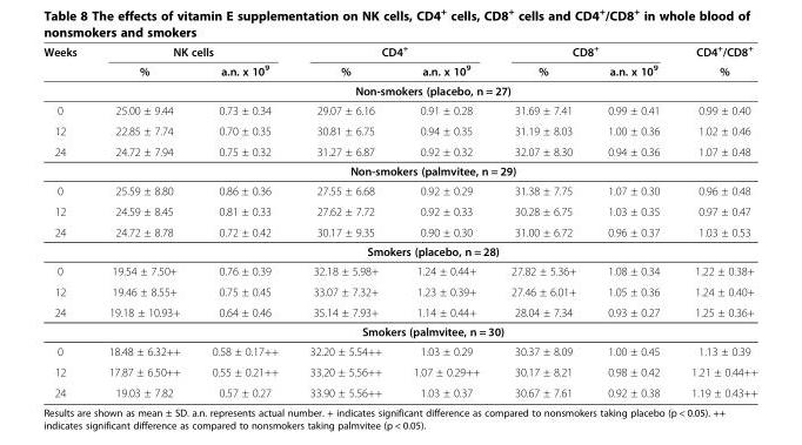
<table><thead><tr><td rowspan="2">Weeks</td><td colspan="2">NK cells</td><td colspan="2">CD4<sup>+</sup></td><td colspan="2">CD8<sup>+</sup></td><td rowspan="2">CD4<sup>+</sup>/CD8<sup>+</sup> %</td></tr><tr><td>%</td><td>a.n. x 10<sup>9</sup></td><td>%</td><td>a.n. x 10<sup>9</sup></td><td>%</td><td>a.n. x 10<sup>9</sup></td></tr></thead><tbody><tr><td></td><td colspan="7">Non-smokers (placebo, n = 27)</td></tr><tr><td>0</td><td>25.00 ± 9.44</td><td>0.73 ± 0.34</td><td>29.07 ± 6.16</td><td>0.91 ± 0.28</td><td>31.69 ± 7.41</td><td>0.99 ± 0.41</td><td>0.99 ± 0.40</td></tr><tr><td>12</td><td>22.85 ± 7.74</td><td>0.70 ± 0.35</td><td>30.81 ± 6.75</td><td>0.94 ± 0.35</td><td>31.19 ± 8.03</td><td>1.00 ± 0.36</td><td>1.02 ± 0.46</td></tr><tr><td rowspan="2">24</td><td>24.72 ± 7.94</td><td>0.75 ± 0.32</td><td>31.27 ± 6.87</td><td>0.92 ± 0.32</td><td>32.07 ± 8.30</td><td>0.94 ± 0.36</td><td>1.07 ± 0.48</td></tr><tr><td colspan="7">Non-smokers (palmvitee, n = 29)</td></tr><tr><td>0</td><td>25.59 ± 8.80</td><td>0.86 ± 0.36</td><td>27.55 ± 6.68</td><td>0.92 ± 0.29</td><td>31.38 ± 7.75</td><td>1.07 ± 0.30</td><td>0.96 ± 0.48</td></tr><tr><td>12</td><td>24.59 ± 8.45</td><td>0.81 ± 0.33</td><td>27.62 ± 7.72</td><td>0.92 ± 0.33</td><td>30.28 ± 6.75</td><td>1.03 ± 0.35</td><td>0.97 ± 0.47</td></tr><tr><td rowspan="2">24</td><td>24.72 ± 8.78</td><td>0.72 ± 0.42</td><td>30.17 ± 9.35</td><td>0.90 ± 0.30</td><td>31.00 ± 6.72</td><td>0.96 ± 0.37</td><td>1.03 ± 0.53</td></tr><tr><td colspan="7">Smokers (placebo, n = 28)</td></tr><tr><td>0</td><td>19.54 ± 7.50+</td><td>0.76 ± 0.39</td><td>32.18 ± 5.98+</td><td>1.24 ± 0.44+</td><td>27.82 ± 5.36+</td><td>1.08 ± 0.34</td><td>1.22 ± 0.38+</td></tr><tr><td>12</td><td>19.46 ± 8.55+</td><td>0.75 ± 0.45</td><td>33.07 ± 7.32+</td><td>1.23 ± 0.39+</td><td>27.46 ± 6.01+</td><td>1.05 ± 0.36</td><td>1.24 ± 0.40+</td></tr><tr><td rowspan="2">24</td><td>19.18 ± 10.93+</td><td>0.64 ± 0.46</td><td>35.14 ± 7.93+</td><td>1.14 ± 0.44+</td><td>28.04 ± 7.34</td><td>0.93 ± 0.27</td><td>1.25 ± 0.36+</td></tr><tr><td colspan="7">Smokers (palmvitee, n = 30)</td></tr><tr><td>0</td><td>18.48 ± 6.32++</td><td>0.58 ± 0.17++</td><td>32.20 ± 5.54++</td><td>1.03 ± 0.29</td><td>30.37 ± 8.09</td><td>1.00 ± 0.45</td><td>1.13 ± 0.39</td></tr><tr><td>12</td><td>17.87 ± 6.50++</td><td>0.55 ± 0.21++</td><td>33.20 ± 5.56++</td><td>1.07 ± 0.29++</td><td>30.17 ± 8.21</td><td>0.98 ± 0.42</td><td>1.21 ± 0.44++</td></tr><tr><td>24</td><td>19.03 ± 7.82</td><td>0.57 ± 0.27</td><td>33.90 ± 5.56++</td><td>1.03 ± 0.37</td><td>30.67 ± 7.61</td><td>0.92 ± 0.38</td><td>1.19 ± 0.43++</td></tr></tbody></table>